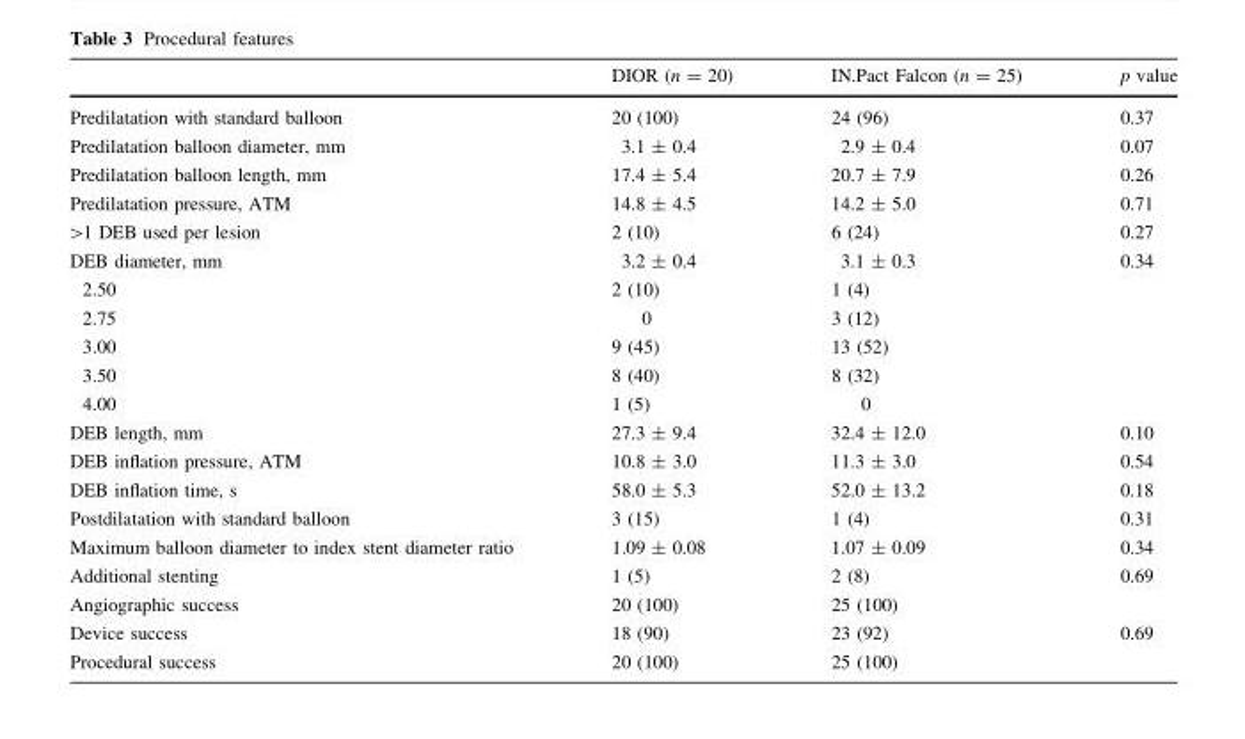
<table><thead><tr><td></td><td>DIOR (n = 20)</td><td>IN.Pact Falcon (n = 25)</td><td>p value</td></tr></thead><tbody><tr><td>Predilatation with standard balloon</td><td>20 (100)</td><td>24 (96)</td><td>0.37</td></tr><tr><td>Predilatation balloon diameter, mm</td><td>3.1 ± 0.4</td><td>2.9 ± 0.4</td><td>0.07</td></tr><tr><td>Predilatation balloon length, mm</td><td>17.4 ± 5.4</td><td>20.7 ± 7.9</td><td>0.26</td></tr><tr><td>Predilatation pressure, ATM</td><td>14.8 ± 4.5</td><td>14.2 ± 5.0</td><td>0.71</td></tr><tr><td>&gt;1 DEB used per lesion</td><td>2 (10)</td><td>6 (24)</td><td>0.27</td></tr><tr><td>DEB diameter, mm</td><td>3.2 ± 0.4</td><td>3.1 ± 0.3</td><td>0.34</td></tr><tr><td>2.50</td><td>2 (10)</td><td>1 (4)</td><td></td></tr><tr><td>2.75</td><td>0</td><td>3 (12)</td><td></td></tr><tr><td>3.00</td><td>9 (45)</td><td>13 (52)</td><td></td></tr><tr><td>3.50</td><td>8 (40)</td><td>8 (32)</td><td></td></tr><tr><td>4.00</td><td>1 (5)</td><td>0</td><td></td></tr><tr><td>DEB length, mm</td><td>27.3 ± 9.4</td><td>32.4 ± 12.0</td><td>0.10</td></tr><tr><td>DEB inflation pressure, ATM</td><td>10.8 ± 3.0</td><td>11.3 ± 3.0</td><td>0.54</td></tr><tr><td>DEB inflation time, s</td><td>58.0 ± 5.3</td><td>52.0 ± 13.2</td><td>0.18</td></tr><tr><td>Postdilatation with standard balloon</td><td>3 (15)</td><td>1 (4)</td><td>0.31</td></tr><tr><td>Maximum balloon diameter to index stent diameter ratio</td><td>1.09 ± 0.08</td><td>1.07 ± 0.09</td><td>0.34</td></tr><tr><td>Additional stenting</td><td>1 (5)</td><td>2 (8)</td><td>0.69</td></tr><tr><td>Angiographic success</td><td>20 (100)</td><td>25 (100)</td><td></td></tr><tr><td>Device success</td><td>18 (90)</td><td>23 (92)</td><td>0.69</td></tr><tr><td>Procedural success</td><td>20 (100)</td><td>25 (100)</td><td></td></tr></tbody></table>